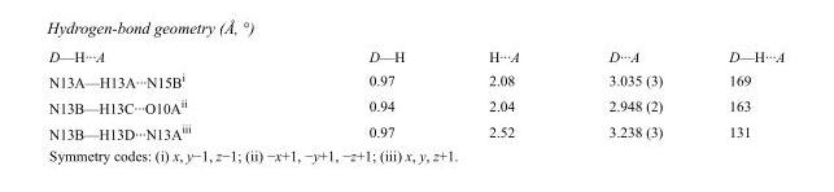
<table><tbody><tr><td>D—H···A</td><td>D—H</td><td>H···A</td><td>D···A</td><td>D—H···A</td></tr><tr><td>N13A—H13A···N15B<sup>i</sup></td><td>0.97</td><td>2.08</td><td>3.035 (3)</td><td>169</td></tr><tr><td>N13B—H13C···O10A<sup>ii</sup></td><td>0.94</td><td>2.04</td><td>2.948 (2)</td><td>163</td></tr><tr><td>N13B—H13D···N13A<sup>iii</sup></td><td>0.97</td><td>2.52</td><td>3.238 (3)</td><td>131</td></tr></tbody></table>